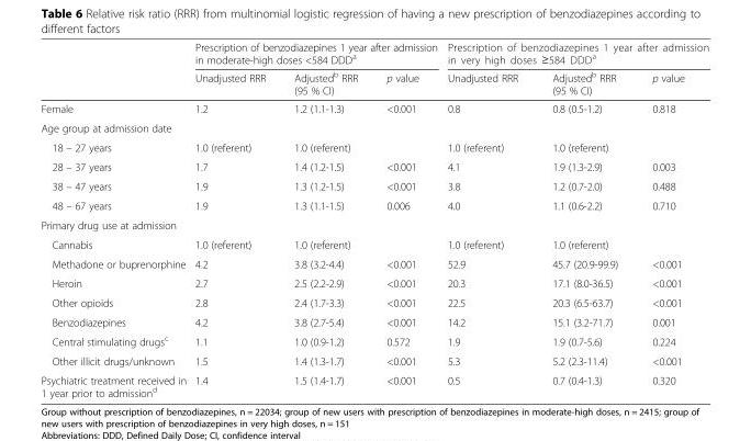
<table><thead><tr><td rowspan="2"></td><td colspan="3">Prescription of benzodiazepines 1 year after admission in moderate-high doses &lt;584 DDD<sup>a</sup></td><td colspan="3">Prescription of benzodiazepines 1 year after admission in very high doses ≥584 DDD<sup>a</sup></td></tr><tr><td>Unadjusted RRR</td><td>Adjusted<sup>b</sup> RRR (95 % CI)</td><td>p value</td><td>Unadjusted RRR</td><td>Adjusted<sup>b</sup> RRR (95 % CI)</td><td>p value</td></tr></thead><tbody><tr><td>Female</td><td>1.2</td><td>1.2 (1.1-1.3)</td><td>&lt;0.001</td><td>0.8</td><td>0.8 (0.5-1.2)</td><td>0.818</td></tr><tr><td colspan="7">Age group at admission date</td></tr><tr><td>18 – 27 years</td><td>1.0 (referent)</td><td>1.0 (referent)</td><td></td><td>1.0 (referent)</td><td>1.0 (referent)</td><td></td></tr><tr><td>28 – 37 years</td><td>1.7</td><td>1.4 (1.2-1.5)</td><td>&lt;0.001</td><td>4.1</td><td>1.9 (1.3-2.9)</td><td>0.003</td></tr><tr><td>38 – 47 years</td><td>1.9</td><td>1.3 (1.2-1.5)</td><td>&lt;0.001</td><td>3.8</td><td>1.2 (0.7-2.0)</td><td>0.488</td></tr><tr><td>48 – 67 years</td><td>1.9</td><td>1.3 (1.1-1.5)</td><td>0.006</td><td>4.0</td><td>1.1 (0.6-2.2)</td><td>0.710</td></tr><tr><td colspan="7">Primary drug use at admission</td></tr><tr><td>Cannabis</td><td>1.0 (referent)</td><td>1.0 (referent)</td><td></td><td>1.0 (referent)</td><td>1.0 (referent)</td><td></td></tr><tr><td>Methadone or buprenorphine</td><td>4.2</td><td>3.8 (3.2-4.4)</td><td>&lt;0.001</td><td>52.9</td><td>45.7 (20.9-99.9)</td><td>&lt;0.001</td></tr><tr><td>Heroin</td><td>2.7</td><td>2.5 (2.2-2.9)</td><td>&lt;0.001</td><td>20.3</td><td>17.1 (8.0-36.5)</td><td>&lt;0.001</td></tr><tr><td>Other opioids</td><td>2.8</td><td>2.4 (1.7-3.3)</td><td>&lt;0.001</td><td>22.5</td><td>20.3 (6.5-63.7)</td><td>&lt;0.001</td></tr><tr><td>Benzodiazepines</td><td>4.2</td><td>3.8 (2.7-5.4)</td><td>&lt;0.001</td><td>14.2</td><td>15.1 (3.2-71.7)</td><td>0.001</td></tr><tr><td>Central stimulating drugs<sup>c</sup></td><td>1.1</td><td>1.0 (0.9-1.2)</td><td>0.572</td><td>1.9</td><td>1.9 (0.7-5.6)</td><td>0.224</td></tr><tr><td>Other illicit drugs/unknown</td><td>1.5</td><td>1.4 (1.3-1.7)</td><td>&lt;0.001</td><td>5.3</td><td>5.2 (2.3-11.4)</td><td>&lt;0.001</td></tr><tr><td>Psychiatric treatment received in 1 year prior to admission<sup>d</sup></td><td>1.4</td><td>1.5 (1.4-1.7)</td><td>&lt;0.001</td><td>0.5</td><td>0.7 (0.4-1.3)</td><td>0.320</td></tr></tbody></table>